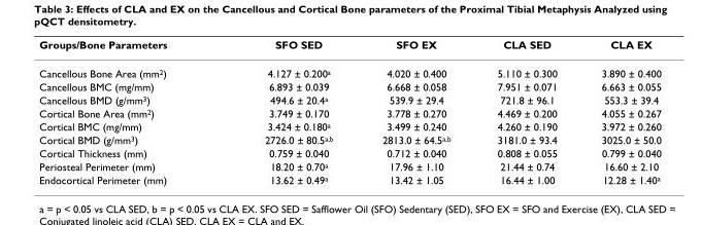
<table><thead><tr><td>Groups/Bone Parameters</td><td>SFO SED</td><td>SFO EX</td><td>CLA SED</td><td>CLA EX</td></tr></thead><tbody><tr><td>Cancellous Bone Area (mm<sup>2</sup>)</td><td>4.127 ± 0.200<sup>a</sup></td><td>4.020 ± 0.400</td><td>5.110 ± 0.300</td><td>3.890 ± 0.400</td></tr><tr><td>Cancellous BMC (mg/mm)</td><td>6.893 ± 0.039</td><td>6.668 ± 0.058</td><td>7.951 ± 0.071</td><td>6.663 ± 0.055</td></tr><tr><td>Cancellous BMD (g/mm<sup>3</sup>)</td><td>494.6 ± 20.4<sup>a</sup></td><td>539.9 ± 29.4</td><td>721.8 ± 96.1</td><td>553.3 ± 39.4</td></tr><tr><td>Cortical Bone Area (mm<sup>2</sup>)</td><td>3.749 ± 0.170</td><td>3.778 ± 0.270</td><td>4.469 ± 0.200</td><td>4.055 ± 0.267</td></tr><tr><td>Cortical BMC (mg/mm)</td><td>3.424 ± 0.180<sup>a</sup></td><td>3.499 ± 0.240</td><td>4.260 ± 0.190</td><td>3.972 ± 0.260</td></tr><tr><td>Cortical BMD (g/mm<sup>3</sup>)</td><td>2726.0 ± 80.5<sup>a,b</sup></td><td>2813.0 ± 64.5<sup>a,b</sup></td><td>3181.0 ± 93.4</td><td>3025.0 ± 50.0</td></tr><tr><td>Cortical Thickness (mm)</td><td>0.759 ± 0.040</td><td>0.712 ± 0.040</td><td>0.808 ± 0.055</td><td>0.799 ± 0.040</td></tr><tr><td>Periosteal Perimeter (mm)</td><td>18.20 ± 0.70<sup>a</sup></td><td>17.96 ± 1.10</td><td>21.44 ± 0.74</td><td>16.60 ± 2.10</td></tr><tr><td>Endocortical Perimeter (mm)</td><td>13.62 ± 0.49<sup>a</sup></td><td>13.42 ± 1.05</td><td>16.44 ± 1.00</td><td>12.28 ± 1.40<sup>a</sup></td></tr></tbody></table>